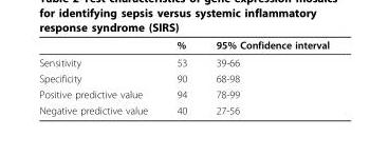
<table><thead><tr><td></td><td>%</td><td>95% Confidence interval</td></tr></thead><tbody><tr><td>Sensitivity</td><td>53</td><td>39-66</td></tr><tr><td>Specificity</td><td>90</td><td>68-98</td></tr><tr><td>Positive predictive value</td><td>94</td><td>78-99</td></tr><tr><td>Negative predictive value</td><td>40</td><td>27-56</td></tr></tbody></table>